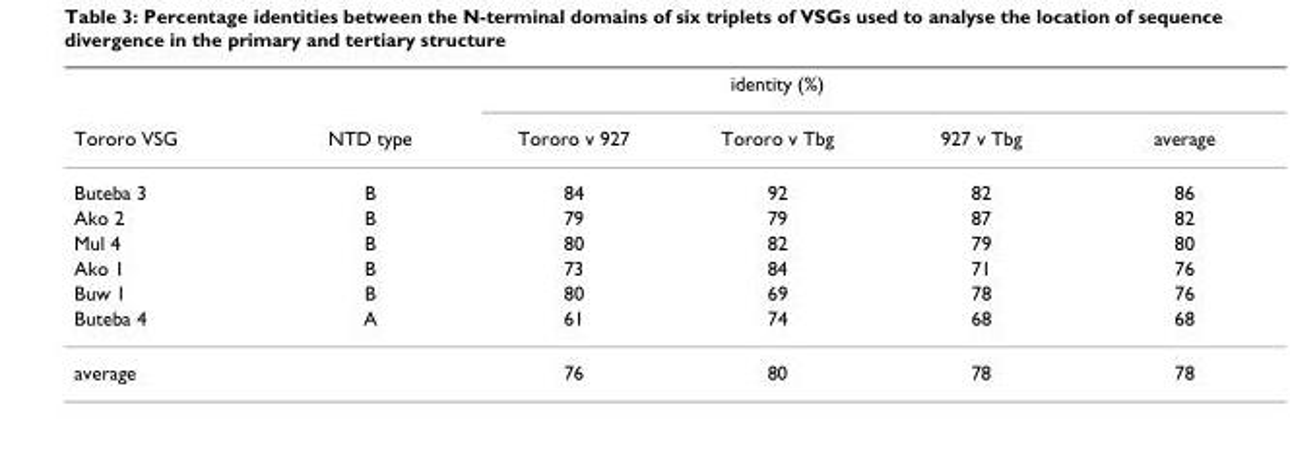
<table><thead><tr><td rowspan="2">Tororo VSG</td><td rowspan="2">NTD type</td><td colspan="3">identity (%)</td><td rowspan="2">average</td></tr><tr><td>Tororo v 927</td><td>Tororo v Tbg</td><td>927 v Tbg</td></tr></thead><tbody><tr><td>Buteba 3</td><td>B</td><td>84</td><td>92</td><td>82</td><td>86</td></tr><tr><td>Ako 2</td><td>B</td><td>79</td><td>79</td><td>87</td><td>82</td></tr><tr><td>Mul 4</td><td>B</td><td>80</td><td>82</td><td>79</td><td>80</td></tr><tr><td>Ako 1</td><td>B</td><td>73</td><td>84</td><td>71</td><td>76</td></tr><tr><td>Buw 1</td><td>B</td><td>80</td><td>69</td><td>78</td><td>76</td></tr><tr><td>Buteba 4</td><td>A</td><td>61</td><td>74</td><td>68</td><td>68</td></tr><tr><td colspan="2">average</td><td>76</td><td>80</td><td>78</td><td>78</td></tr></tbody></table>